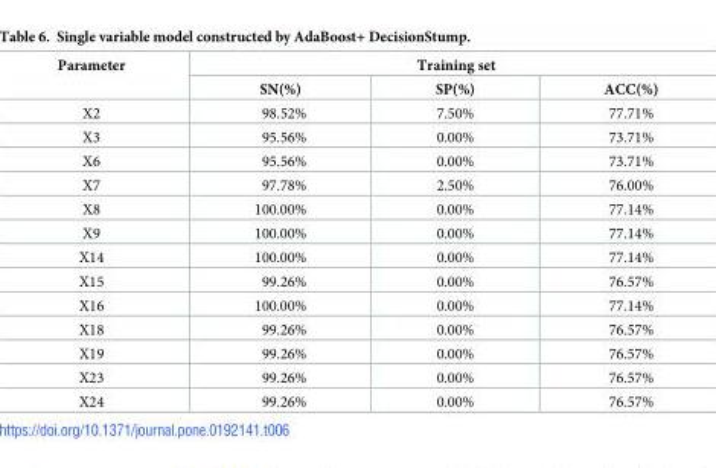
<table><thead><tr><td rowspan="2">Parameter</td><td colspan="3">Training set</td></tr><tr><td>SN(%)</td><td>SP(%)</td><td>ACC(%)</td></tr></thead><tbody><tr><td>X2</td><td>98.52%</td><td>7.50%</td><td>77.71%</td></tr><tr><td>X3</td><td>95.56%</td><td>0.00%</td><td>73.71%</td></tr><tr><td>X6</td><td>95.56%</td><td>0.00%</td><td>73.71%</td></tr><tr><td>X7</td><td>97.78%</td><td>2.50%</td><td>76.00%</td></tr><tr><td>X8</td><td>100.00%</td><td>0.00%</td><td>77.14%</td></tr><tr><td>X9</td><td>100.00%</td><td>0.00%</td><td>77.14%</td></tr><tr><td>X14</td><td>100.00%</td><td>0.00%</td><td>77.14%</td></tr><tr><td>X15</td><td>99.26%</td><td>0.00%</td><td>76.57%</td></tr><tr><td>X16</td><td>100.00%</td><td>0.00%</td><td>77.14%</td></tr><tr><td>X18</td><td>99.26%</td><td>0.00%</td><td>76.57%</td></tr><tr><td>X19</td><td>99.26%</td><td>0.00%</td><td>76.57%</td></tr><tr><td>X23</td><td>99.26%</td><td>0.00%</td><td>76.57%</td></tr><tr><td>X24</td><td>99.26%</td><td>0.00%</td><td>76.57%</td></tr></tbody></table>